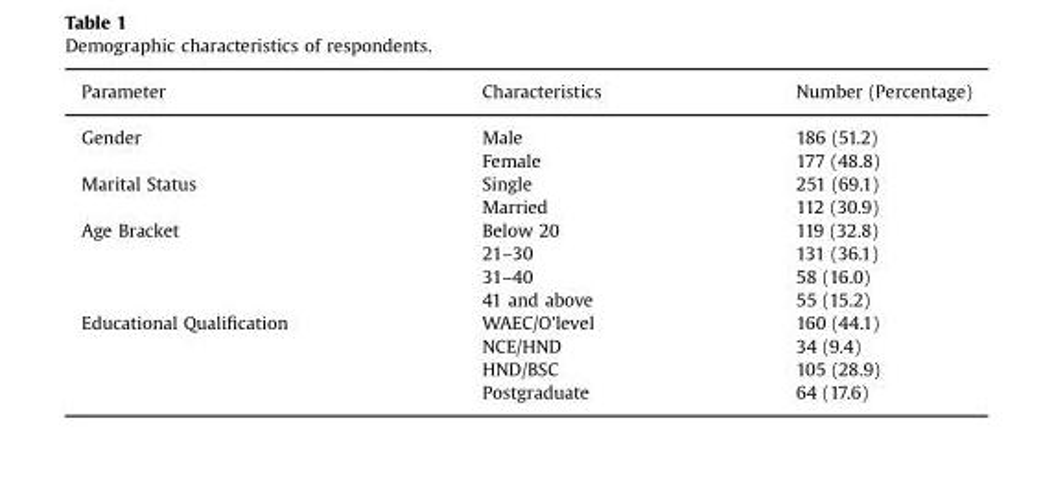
<table><thead><tr><td>Parameter</td><td>Characteristics</td><td>Number (Percentage)</td></tr></thead><tbody><tr><td rowspan="2">Gender</td><td>Male</td><td>186 (51.2)</td></tr><tr><td>Female</td><td>177 (48.8)</td></tr><tr><td rowspan="2">Marital Status</td><td>Single</td><td>251 (69.1)</td></tr><tr><td>Married</td><td>112 (30.9)</td></tr><tr><td rowspan="4">Age Bracket</td><td>Below 20</td><td>119 (32.8)</td></tr><tr><td>21–30</td><td>131 (36.1)</td></tr><tr><td>31–40</td><td>58 (16.0)</td></tr><tr><td>41 and above</td><td>55 (15.2)</td></tr><tr><td rowspan="4">Educational Qualification</td><td>WAEC/O’level</td><td>160 (44.1)</td></tr><tr><td>NCE/HND</td><td>34 (9.4)</td></tr><tr><td>HND/BSC</td><td>105 (28.9)</td></tr><tr><td>Postgraduate</td><td>64 (17.6)</td></tr></tbody></table>